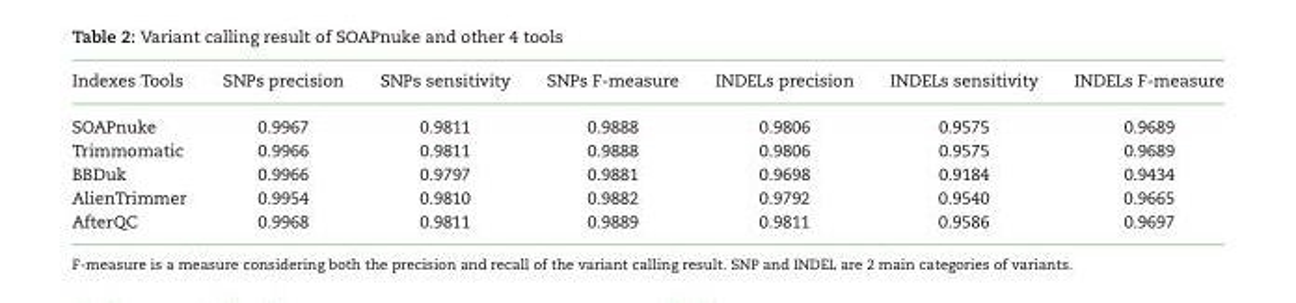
<table><thead><tr><td>Indexes Tools</td><td>SNPs precision</td><td>SNPs sensitivity</td><td>SNPs F-measure</td><td>INDELs precision</td><td>INDELs sensitivity</td><td>INDELs F-measure</td></tr></thead><tbody><tr><td>SOAPnuke</td><td>0.9967</td><td>0.9811</td><td>0.9888</td><td>0.9806</td><td>0.9575</td><td>0.9689</td></tr><tr><td>Trimmomatic</td><td>0.9966</td><td>0.9811</td><td>0.9888</td><td>0.9806</td><td>0.9575</td><td>0.9689</td></tr><tr><td>BBDuk</td><td>0.9966</td><td>0.9797</td><td>0.9881</td><td>0.9698</td><td>0.9184</td><td>0.9434</td></tr><tr><td>AlienTrimmer</td><td>0.9954</td><td>0.9810</td><td>0.9882</td><td>0.9792</td><td>0.9540</td><td>0.9665</td></tr><tr><td>AfterQC</td><td>0.9968</td><td>0.9811</td><td>0.9889</td><td>0.9811</td><td>0.9586</td><td>0.9697</td></tr></tbody></table>